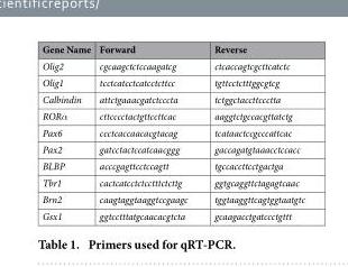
<table><thead><tr><td>Gene Name</td><td>Forward</td><td>Reverse</td></tr></thead><tbody><tr><td>Olig2</td><td>cgcaagctctccaagatcg</td><td>ctcaccagtcgcttcatctc</td></tr><tr><td>Olig1</td><td>tcctcatcctcatcctcttcc</td><td>tgttcctctttggcgtcg</td></tr><tr><td>Calbindin</td><td>attctgaaacgatctcccta</td><td>tctggctaccttccctta</td></tr><tr><td>RORα</td><td>cttcccctactgttccttcac</td><td>aaggtctgccacgttatctg</td></tr><tr><td>Pax6</td><td>ccctcaccaacacgtacag</td><td>tcataactccgcccattcac</td></tr><tr><td>Pax2</td><td>gatcctactccatcaacggg</td><td>gaccagatgtaaacctccacc</td></tr><tr><td>BLBP</td><td>acccgagttcctccagtt</td><td>tgccaccttcctgactga</td></tr><tr><td>Tbr1</td><td>cactcatcctctcctttctcttg</td><td>ggtgcaggttctagagtcaac</td></tr><tr><td>Brn2</td><td>caagtaggtaaggtccgaagc</td><td>tggtaaggttcagtggtaatgtc</td></tr><tr><td>Gsx1</td><td>ggtcctttatgcaacacgtcta</td><td>gcaagacctgatccctgttt</td></tr></tbody></table>